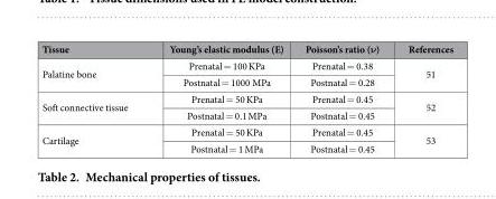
<table><thead><tr><td>Tissue</td><td>Young’s elastic modulus (E)</td><td>Poisson’s ratio (ν)</td><td>References</td></tr></thead><tbody><tr><td rowspan="2">Palatine bone</td><td>Prenatal = 100 KPa</td><td>Prenatal = 0.38</td><td rowspan="2">51</td></tr><tr><td>Postnatal = 1000 MPa</td><td>Postnatal = 0.28</td></tr><tr><td rowspan="2">Soft connective tissue</td><td>Prenatal = 50 KPa</td><td>Prenatal = 0.45</td><td rowspan="2">52</td></tr><tr><td>Postnatal = 0.1 MPa</td><td>Postnatal = 0.45</td></tr><tr><td rowspan="2">Cartilage</td><td>Prenatal = 50 KPa</td><td>Prenatal = 0.45</td><td rowspan="2">53</td></tr><tr><td>Postnatal = 1 MPa</td><td>Postnatal = 0.45</td></tr></tbody></table>